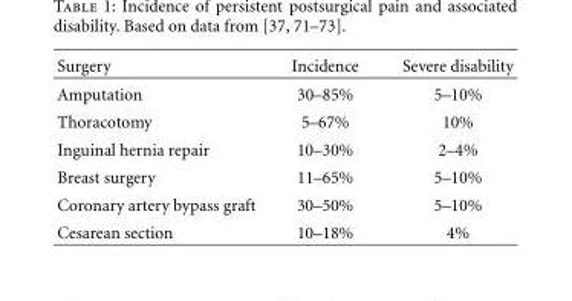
<table><thead><tr><td>Surgery</td><td>Incidence</td><td>Severe disability</td></tr></thead><tbody><tr><td>Amputation</td><td>30–85%</td><td>5–10%</td></tr><tr><td>Thoracotomy</td><td>5–67%</td><td>10%</td></tr><tr><td>Inguinal hernia repair</td><td>10–30%</td><td>2–4%</td></tr><tr><td>Breast surgery</td><td>11–65%</td><td>5–10%</td></tr><tr><td>Coronary artery bypass graft</td><td>30–50%</td><td>5–10%</td></tr><tr><td>Cesarean section</td><td>10–18%</td><td>4%</td></tr></tbody></table>